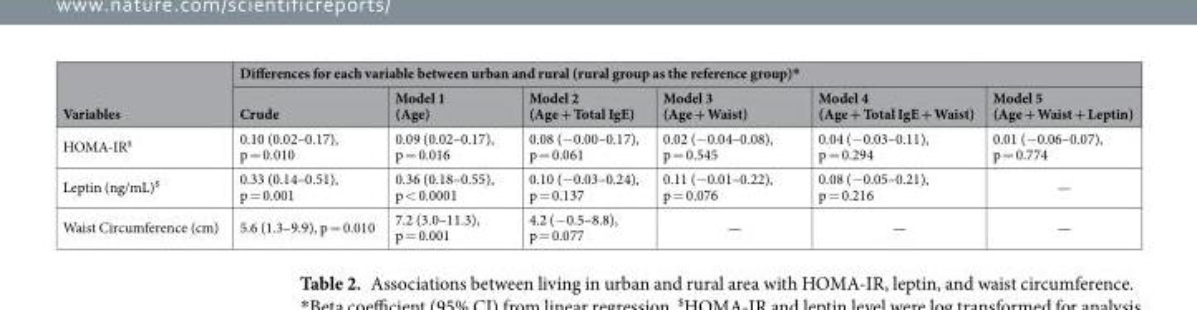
<table><thead><tr><td rowspan="2">Variables</td><td colspan="6">Differences for each variable between urban and rural (rural group as the reference group)*</td></tr><tr><td>Crude</td><td>Model 1 (Age)</td><td>Model 2 (Age + Total IgE)</td><td>Model 3 (Age + Waist)</td><td>Model 4 (Age + Total IgE + Waist)</td><td>Model 5 (Age + Waist + Leptin)</td></tr></thead><tbody><tr><td>HOMA-IR<sup>$</sup></td><td>0.10 (0.02–0.17), p = 0.010</td><td>0.09 (0.02–0.17), p = 0.016</td><td>0.08 (−0.00–0.17), p = 0.061</td><td>0.02 (−0.04–0.08), p = 0.545</td><td>0.04 (−0.03–0.11), p = 0.294</td><td>0.01 (−0.06–0.07), p = 0.774</td></tr><tr><td>Leptin (ng/mL)<sup>$</sup></td><td>0.33 (0.14–0.51), p = 0.001</td><td>0.36 (0.18–0.55), p &lt; 0.0001</td><td>0.10 (−0.03–0.24), p = 0.137</td><td>0.11 (−0.01–0.22), p = 0.076</td><td>0.08 (−0.05–0.21), p = 0.216</td><td>—</td></tr><tr><td>Waist Circumference (cm)</td><td>5.6 (1.3–9.9), p = 0.010</td><td>7.2 (3.0–11.3), p = 0.001</td><td>4.2 (−0.5–8.8), p = 0.077</td><td>—</td><td>—</td><td>—</td></tr></tbody></table>